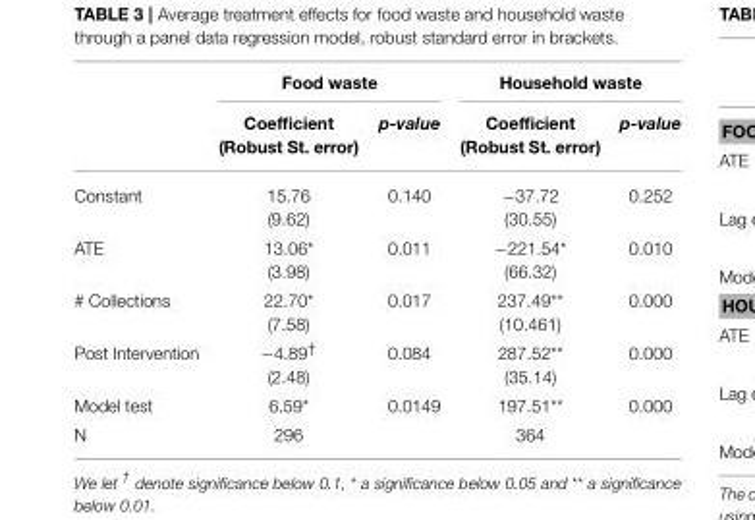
<table><thead><tr><td rowspan="2"></td><td colspan="2">Food waste</td><td colspan="2">Household waste</td></tr><tr><td>Coefficient (Robust St. error)</td><td>p-value</td><td>Coefficient (Robust St. error)</td><td>p-value</td></tr></thead><tbody><tr><td>Constant</td><td>15.76 (9.62)</td><td>0.140</td><td>−37.72 (30.55)</td><td>0.252</td></tr><tr><td>ATE</td><td>13.06* (3.98)</td><td>0.011</td><td>−221.54* (66.32)</td><td>0.010</td></tr><tr><td># Collections</td><td>22.70* (7.58)</td><td>0.017</td><td>237.49** (10.461)</td><td>0.000</td></tr><tr><td>Post Intervention</td><td>−4.89<sup>†</sup> (2.48)</td><td>0.084</td><td>287.52** (35.14)</td><td>0.000</td></tr><tr><td>Model test</td><td>6.59*</td><td>0.0149</td><td>197.51**</td><td>0.000</td></tr><tr><td>N</td><td>296</td><td></td><td>364</td><td></td></tr></tbody></table>